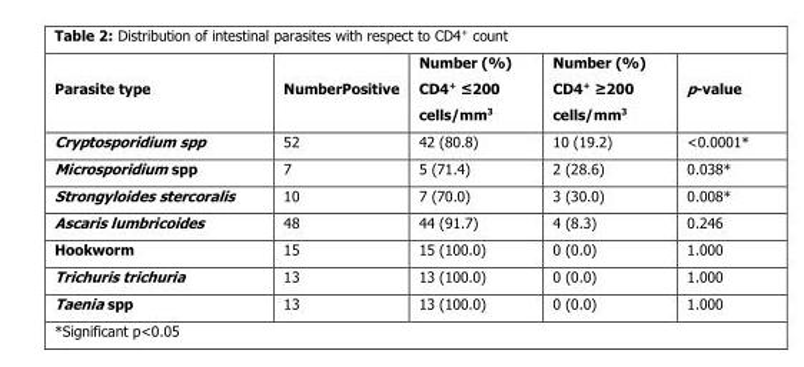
<table><thead><tr><td>Parasite type</td><td>NumberPositive</td><td>Number (%) CD4<sup>+</sup> ≤200 cells/mm<sup>3</sup></td><td>Number (%) CD4<sup>+</sup> ≥200 cells/mm<sup>3</sup></td><td>p-value</td></tr></thead><tbody><tr><td>Cryptosporidium spp</td><td>52</td><td>42 (80.8)</td><td>10 (19.2)</td><td>&lt;0.0001*</td></tr><tr><td>Microsporidium spp</td><td>7</td><td>5 (71.4)</td><td>2 (28.6)</td><td>0.038*</td></tr><tr><td>Strongyloides stercoralis</td><td>10</td><td>7 (70.0)</td><td>3 (30.0)</td><td>0.008*</td></tr><tr><td>Ascaris lumbricoides</td><td>48</td><td>44 (91.7)</td><td>4 (8.3)</td><td>0.246</td></tr><tr><td>Hookworm</td><td>15</td><td>15 (100.0)</td><td>0 (0.0)</td><td>1.000</td></tr><tr><td>Trichuris trichuria</td><td>13</td><td>13 (100.0)</td><td>0 (0.0)</td><td>1.000</td></tr><tr><td>Taenia spp</td><td>13</td><td>13 (100.0)</td><td>0 (0.0)</td><td>1.000</td></tr></tbody></table>